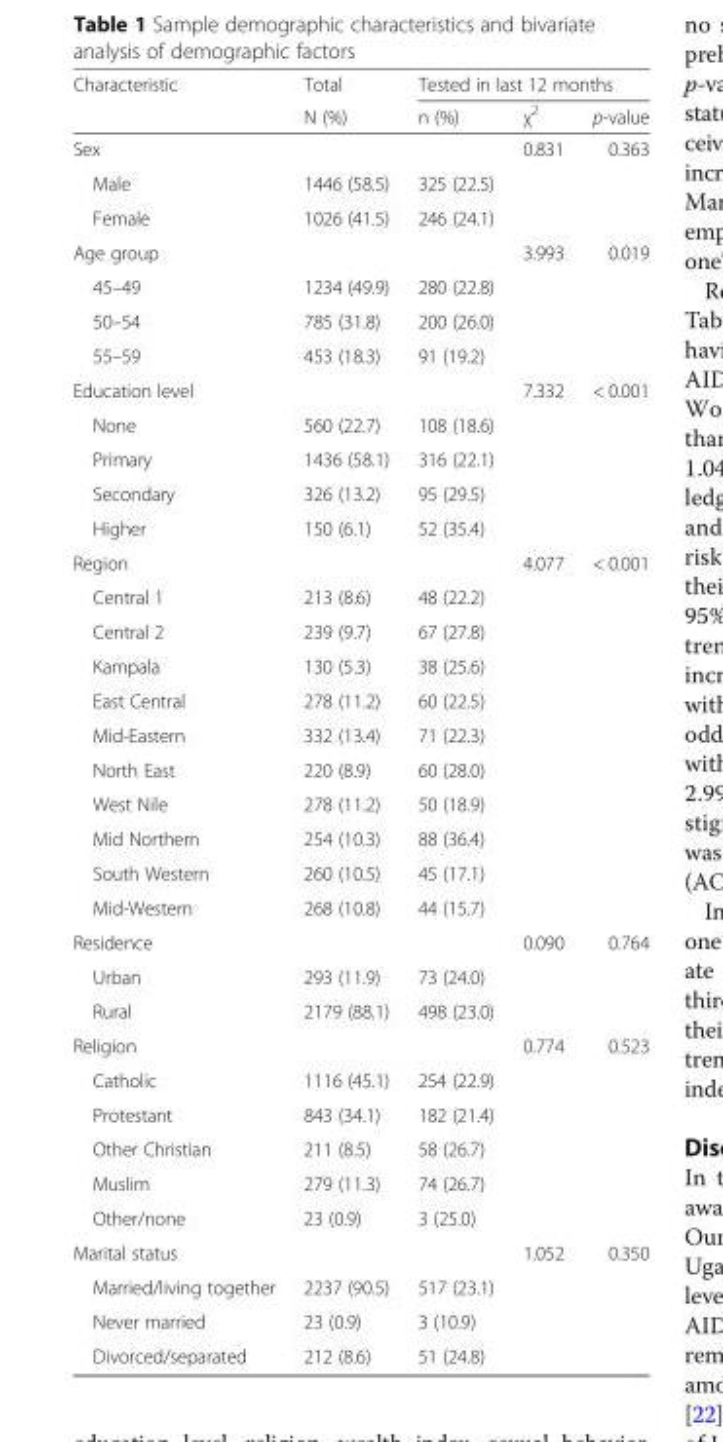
<table><thead><tr><td rowspan="2">Characteristic</td><td rowspan="2">Total N (%)</td><td colspan="3">Tested in last 12 months</td></tr><tr><td>n (%)</td><td>χ<sup>2</sup></td><td>p-value</td></tr></thead><tbody><tr><td>Sex</td><td></td><td></td><td>0.831</td><td>0.363</td></tr><tr><td>Male</td><td>1446 (58.5)</td><td>325 (22.5)</td><td></td><td></td></tr><tr><td>Female</td><td>1026 (41.5)</td><td>246 (24.1)</td><td></td><td></td></tr><tr><td>Age group</td><td></td><td></td><td>3.993</td><td>0.019</td></tr><tr><td>45–49</td><td>1234 (49.9)</td><td>280 (22.8)</td><td></td><td></td></tr><tr><td>50–54</td><td>785 (31.8)</td><td>200 (26.0)</td><td></td><td></td></tr><tr><td>55–59</td><td>453 (18.3)</td><td>91 (19.2)</td><td></td><td></td></tr><tr><td>Education level</td><td></td><td></td><td>7.332</td><td>&lt; 0.001</td></tr><tr><td>None</td><td>560 (22.7)</td><td>108 (18.6)</td><td></td><td></td></tr><tr><td>Primary</td><td>1436 (58.1)</td><td>316 (22.1)</td><td></td><td></td></tr><tr><td>Secondary</td><td>326 (13.2)</td><td>95 (29.5)</td><td></td><td></td></tr><tr><td>Higher</td><td>150 (6.1)</td><td>52 (35.4)</td><td></td><td></td></tr><tr><td>Region</td><td></td><td></td><td>4.077</td><td>&lt; 0.001</td></tr><tr><td>Central 1</td><td>213 (8.6)</td><td>48 (22.2)</td><td></td><td></td></tr><tr><td>Central 2</td><td>239 (9.7)</td><td>67 (27.8)</td><td></td><td></td></tr><tr><td>Kampala</td><td>130 (5.3)</td><td>38 (25.6)</td><td></td><td></td></tr><tr><td>East Central</td><td>278 (11.2)</td><td>60 (22.5)</td><td></td><td></td></tr><tr><td>Mid-Eastern</td><td>332 (13.4)</td><td>71 (22.3)</td><td></td><td></td></tr><tr><td>North East</td><td>220 (8.9)</td><td>60 (28.0)</td><td></td><td></td></tr><tr><td>West Nile</td><td>278 (11.2)</td><td>50 (18.9)</td><td></td><td></td></tr><tr><td>Mid Northern</td><td>254 (10.3)</td><td>88 (36.4)</td><td></td><td></td></tr><tr><td>South Western</td><td>260 (10.5)</td><td>45 (17.1)</td><td></td><td></td></tr><tr><td>Mid-Western</td><td>268 (10.8)</td><td>44 (15.7)</td><td></td><td></td></tr><tr><td>Residence</td><td></td><td></td><td>0.090</td><td>0.764</td></tr><tr><td>Urban</td><td>293 (11.9)</td><td>73 (24.0)</td><td></td><td></td></tr><tr><td>Rural</td><td>2179 (88.1)</td><td>498 (23.0)</td><td></td><td></td></tr><tr><td>Religion</td><td></td><td></td><td>0.774</td><td>0.523</td></tr><tr><td>Catholic</td><td>1116 (45.1)</td><td>254 (22.9)</td><td></td><td></td></tr><tr><td>Protestant</td><td>843 (34.1)</td><td>182 (21.4)</td><td></td><td></td></tr><tr><td>Other Christian</td><td>211 (8.5)</td><td>58 (26.7)</td><td></td><td></td></tr><tr><td>Muslim</td><td>279 (11.3)</td><td>74 (26.7)</td><td></td><td></td></tr><tr><td>Other/none</td><td>23 (0.9)</td><td>3 (25.0)</td><td></td><td></td></tr><tr><td>Marital status</td><td></td><td></td><td>1.052</td><td>0.350</td></tr><tr><td>Married/living together</td><td>2237 (90.5)</td><td>517 (23.1)</td><td></td><td></td></tr><tr><td>Never married</td><td>23 (0.9)</td><td>3 (10.9)</td><td></td><td></td></tr><tr><td>Divorced/separated</td><td>212 (8.6)</td><td>51 (24.8)</td><td></td><td></td></tr></tbody></table>